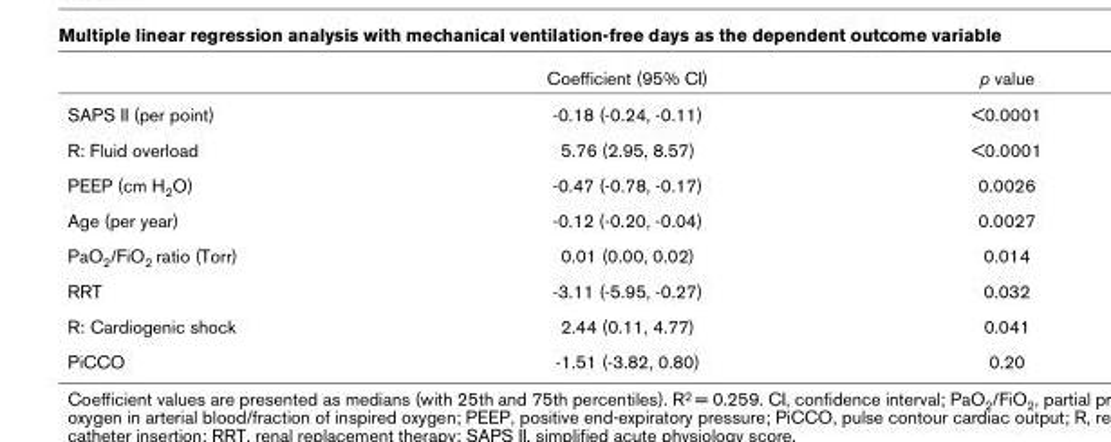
<table><thead><tr><td></td><td>Coefficient (95% CI)</td><td>p value</td></tr></thead><tbody><tr><td>SAPS II (per point)</td><td>-0.18 (-0.24, -0.11)</td><td>&lt;0.0001</td></tr><tr><td>R: Fluid overload</td><td>5.76 (2.95, 8.57)</td><td>&lt;0.0001</td></tr><tr><td>PEEP (cm H2O)</td><td>-0.47 (-0.78, -0.17)</td><td>0.0026</td></tr><tr><td>Age (per year)</td><td>-0.12 (-0.20, -0.04)</td><td>0.0027</td></tr><tr><td>PaO2/FiO2 ratio (Torr)</td><td>0.01 (0.00, 0.02)</td><td>0.014</td></tr><tr><td>RRT</td><td>-3.11 (-5.95, -0.27)</td><td>0.032</td></tr><tr><td>R: Cardiogenic shock</td><td>2.44 (0.11, 4.77)</td><td>0.041</td></tr><tr><td>PiCCO</td><td>-1.51 (-3.82, 0.80)</td><td>0.20</td></tr></tbody></table>